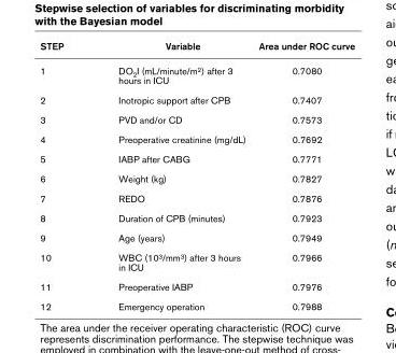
<table><thead><tr><td>STEP</td><td>Variable</td><td>Area under ROC curve</td></tr></thead><tbody><tr><td>1</td><td>DO2I (mL/minute/m2) after 3 hours in ICU</td><td>0.7080</td></tr><tr><td>2</td><td>Inotropic support after CPB</td><td>0.7407</td></tr><tr><td>3</td><td>PVD and/or CD</td><td>0.7573</td></tr><tr><td>4</td><td>Preoperative creatinine (mg/dL)</td><td>0.7692</td></tr><tr><td>5</td><td>IABP after CABG</td><td>0.7771</td></tr><tr><td>6</td><td>Weight (kg)</td><td>0.7827</td></tr><tr><td>7</td><td>REDO</td><td>0.7876</td></tr><tr><td>8</td><td>Duration of CPB (minutes)</td><td>0.7923</td></tr><tr><td>9</td><td>Age (years)</td><td>0.7949</td></tr><tr><td>10</td><td>WBC (103/mm3) after 3 hours in ICU</td><td>0.7966</td></tr><tr><td>11</td><td>Preoperative IABP</td><td>0.7976</td></tr><tr><td>12</td><td>Emergency operation</td><td>0.7988</td></tr></tbody></table>